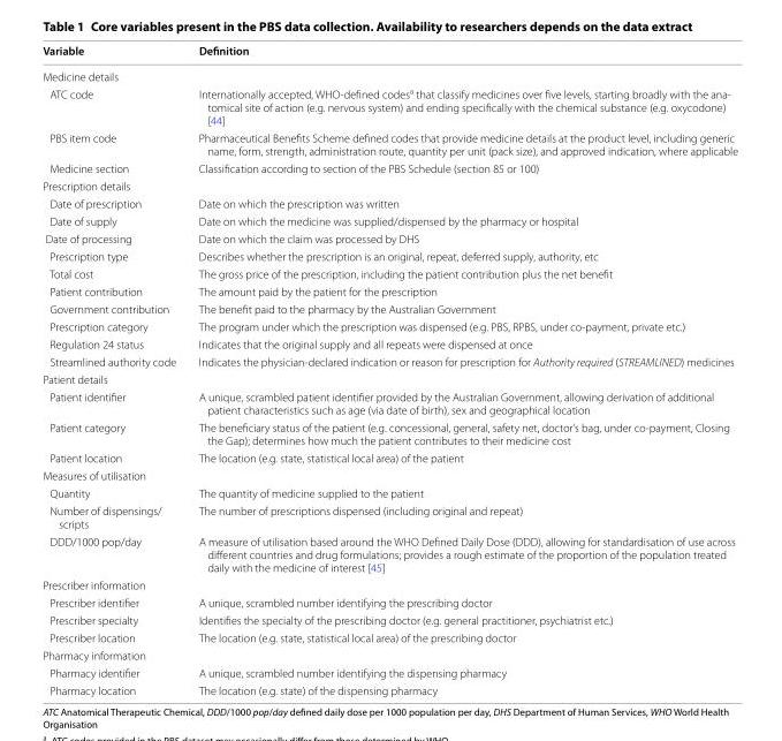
<table><thead><tr><td>Variable</td><td>Definition</td></tr></thead><tbody><tr><td colspan="2">Medicine details</td></tr><tr><td>ATC code</td><td>Internationally accepted, WHO‑defined codesa that classify medicines over five levels, starting broadly with the ana‑ tomical site of action (e.g. nervous system) and ending specifically with the chemical substance (e.g. oxycodone) [44]</td></tr><tr><td>PBS item code</td><td>Pharmaceutical Benefits Scheme defined codes that provide medicine details at the product level, including generic name, form, strength, administration route, quantity per unit (pack size), and approved indication, where applicable</td></tr><tr><td>Medicine section</td><td>Classification according to section of the PBS Schedule (section 85 or 100)</td></tr><tr><td colspan="2">Prescription details</td></tr><tr><td>Date of prescription</td><td>Date on which the prescription was written</td></tr><tr><td>Date of supply</td><td>Date on which the medicine was supplied/dispensed by the pharmacy or hospital</td></tr><tr><td>Date of processing</td><td>Date on which the claim was processed by DHS</td></tr><tr><td>Prescription type</td><td>Describes whether the prescription is an original, repeat, deferred supply, authority, etc</td></tr><tr><td>Total cost</td><td>The gross price of the prescription, including the patient contribution plus the net benefit</td></tr><tr><td>Patient contribution</td><td>The amount paid by the patient for the prescription</td></tr><tr><td>Government contribution</td><td>The benefit paid to the pharmacy by the Australian Government</td></tr><tr><td>Prescription category</td><td>The program under which the prescription was dispensed (e.g. PBS, RPBS, under co‑payment, private etc.)</td></tr><tr><td>Regulation 24 status</td><td>Indicates that the original supply and all repeats were dispensed at once</td></tr><tr><td>Streamlined authority code</td><td>Indicates the physician‑declared indication or reason for prescription for Authority required (STREAMLINED) medicines</td></tr><tr><td colspan="2">Patient details</td></tr><tr><td>Patient identifier</td><td>A unique, scrambled patient identifier provided by the Australian Government, allowing derivation of additional patient characteristics such as age (via date of birth), sex and geographical location</td></tr><tr><td>Patient category</td><td>The beneficiary status of the patient (e.g. concessional, general, safety net, doctor’s bag, under co‑payment, Closing the Gap); determines how much the patient contributes to their medicine cost</td></tr><tr><td>Patient location</td><td>The location (e.g. state, statistical local area) of the patient</td></tr><tr><td colspan="2">Measures of utilisation</td></tr><tr><td>Quantity</td><td>The quantity of medicine supplied to the patient</td></tr><tr><td>Number of dispensings/ scripts</td><td>The number of prescriptions dispensed (including original and repeat)</td></tr><tr><td>DDD/1000 pop/day</td><td>A measure of utilisation based around the WHO Defined Daily Dose (DDD), allowing for standardisation of use across different countries and drug formulations; provides a rough estimate of the proportion of the population treated daily with the medicine of interest [45]</td></tr><tr><td colspan="2">Prescriber information</td></tr><tr><td>Prescriber identifier</td><td>A unique, scrambled number identifying the prescribing doctor</td></tr><tr><td>Prescriber specialty</td><td>Identifies the specialty of the prescribing doctor (e.g. general practitioner, psychiatrist etc.)</td></tr><tr><td>Prescriber location</td><td>The location (e.g. state, statistical local area) of the prescribing doctor</td></tr><tr><td colspan="2">Pharmacy information</td></tr><tr><td>Pharmacy identifier</td><td>A unique, scrambled number identifying the dispensing pharmacy</td></tr><tr><td>Pharmacy location</td><td>The location (e.g. state) of the dispensing pharmacy</td></tr></tbody></table>